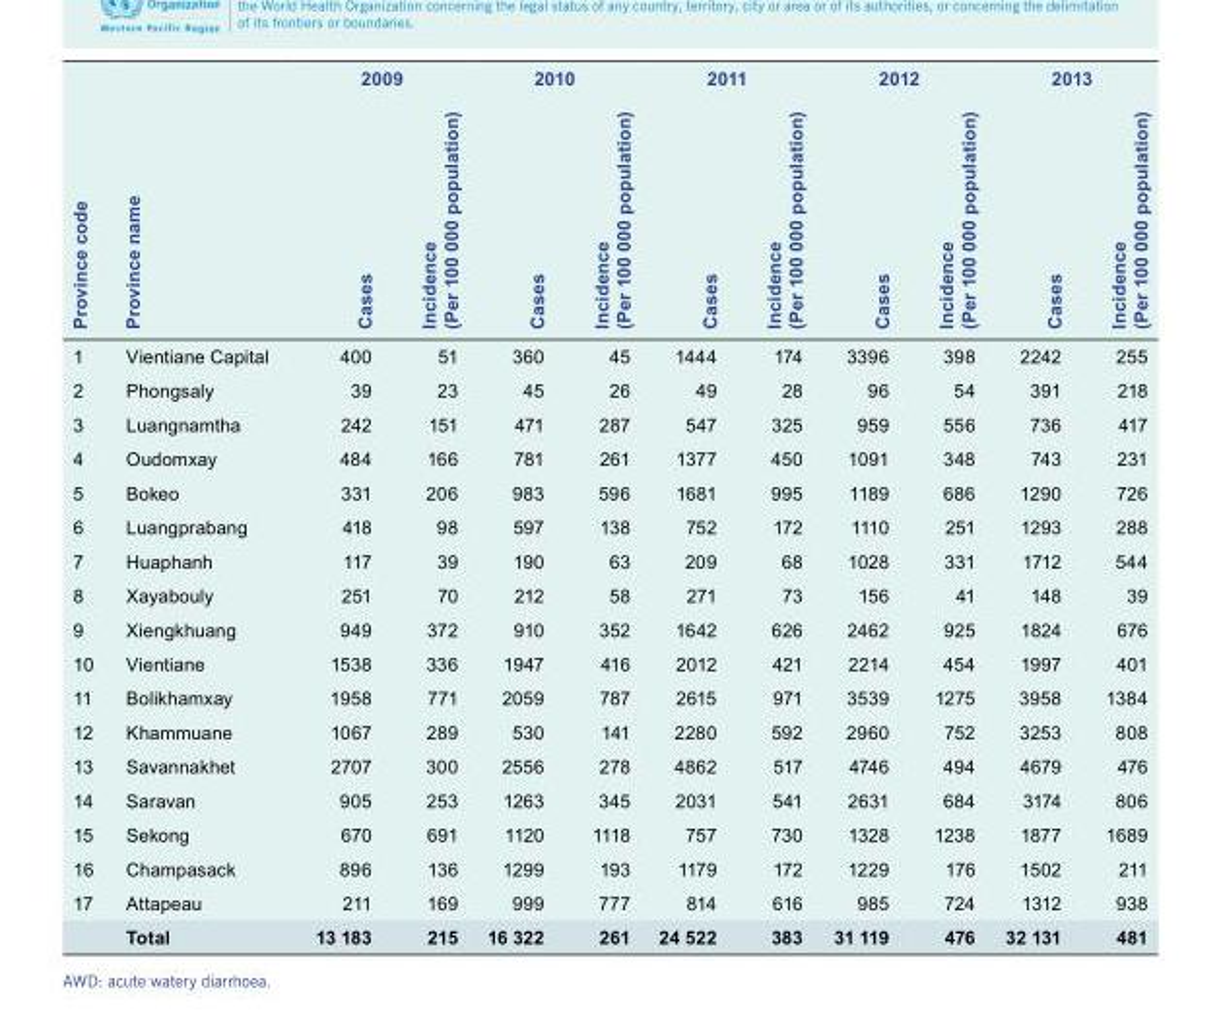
<table><thead><tr><td rowspan="2">Province code</td><td rowspan="2">Province name</td><td colspan="2">2009</td><td colspan="2">2010</td><td colspan="2">2011</td><td colspan="2">2012</td><td colspan="2">2013</td></tr><tr><td>Cases</td><td>Incidence (Per 100 000 population)</td><td>Cases</td><td>Incidence (Per 100 000 population)</td><td>Cases</td><td>Incidence (Per 100 000 population)</td><td>Cases</td><td>Incidence (Per 100 000 population)</td><td>Cases</td><td>Incidence (Per 100 000 population)</td></tr></thead><tbody><tr><td>1</td><td>Vientiane Capital</td><td>400</td><td>51</td><td>360</td><td>45</td><td>1444</td><td>174</td><td>3396</td><td>398</td><td>2242</td><td>255</td></tr><tr><td>2</td><td>Phongsaly</td><td>39</td><td>23</td><td>45</td><td>26</td><td>49</td><td>28</td><td>96</td><td>54</td><td>391</td><td>218</td></tr><tr><td>3</td><td>Luangnamtha</td><td>242</td><td>151</td><td>471</td><td>287</td><td>547</td><td>325</td><td>959</td><td>556</td><td>736</td><td>417</td></tr><tr><td>4</td><td>Oudomxay</td><td>484</td><td>166</td><td>781</td><td>261</td><td>1377</td><td>450</td><td>1091</td><td>348</td><td>743</td><td>231</td></tr><tr><td>5</td><td>Bokeo</td><td>331</td><td>206</td><td>983</td><td>596</td><td>1681</td><td>995</td><td>1189</td><td>686</td><td>1290</td><td>726</td></tr><tr><td>6</td><td>Luangprabang</td><td>418</td><td>98</td><td>597</td><td>138</td><td>752</td><td>172</td><td>1110</td><td>251</td><td>1293</td><td>288</td></tr><tr><td>7</td><td>Huaphanh</td><td>117</td><td>39</td><td>190</td><td>63</td><td>209</td><td>68</td><td>1028</td><td>331</td><td>1712</td><td>544</td></tr><tr><td>8</td><td>Xayabouly</td><td>251</td><td>70</td><td>212</td><td>58</td><td>271</td><td>73</td><td>156</td><td>41</td><td>148</td><td>39</td></tr><tr><td>9</td><td>Xiengkhuang</td><td>949</td><td>372</td><td>910</td><td>352</td><td>1642</td><td>626</td><td>2462</td><td>925</td><td>1824</td><td>676</td></tr><tr><td>10</td><td>Vientiane</td><td>1538</td><td>336</td><td>1947</td><td>416</td><td>2012</td><td>421</td><td>2214</td><td>454</td><td>1997</td><td>401</td></tr><tr><td>11</td><td>Bolikhamxay</td><td>1958</td><td>771</td><td>2059</td><td>787</td><td>2615</td><td>971</td><td>3539</td><td>1275</td><td>3958</td><td>1384</td></tr><tr><td>12</td><td>Khammuane</td><td>1067</td><td>289</td><td>530</td><td>141</td><td>2280</td><td>592</td><td>2960</td><td>752</td><td>3253</td><td>808</td></tr><tr><td>13</td><td>Savannakhet</td><td>2707</td><td>300</td><td>2556</td><td>278</td><td>4862</td><td>517</td><td>4746</td><td>494</td><td>4679</td><td>476</td></tr><tr><td>14</td><td>Saravan</td><td>905</td><td>253</td><td>1263</td><td>345</td><td>2031</td><td>541</td><td>2631</td><td>684</td><td>3174</td><td>806</td></tr><tr><td>15</td><td>Sekong</td><td>670</td><td>691</td><td>1120</td><td>1118</td><td>757</td><td>730</td><td>1328</td><td>1238</td><td>1877</td><td>1689</td></tr><tr><td>16</td><td>Champasack</td><td>896</td><td>136</td><td>1299</td><td>193</td><td>1179</td><td>172</td><td>1229</td><td>176</td><td>1502</td><td>211</td></tr><tr><td>17</td><td>Attapeau</td><td>211</td><td>169</td><td>999</td><td>777</td><td>814</td><td>616</td><td>985</td><td>724</td><td>1312</td><td>938</td></tr><tr><td></td><td>Total</td><td>13 183</td><td>215</td><td>16 322</td><td>261</td><td>24 522</td><td>383</td><td>31 119</td><td>476</td><td>32 131</td><td>481</td></tr></tbody></table>